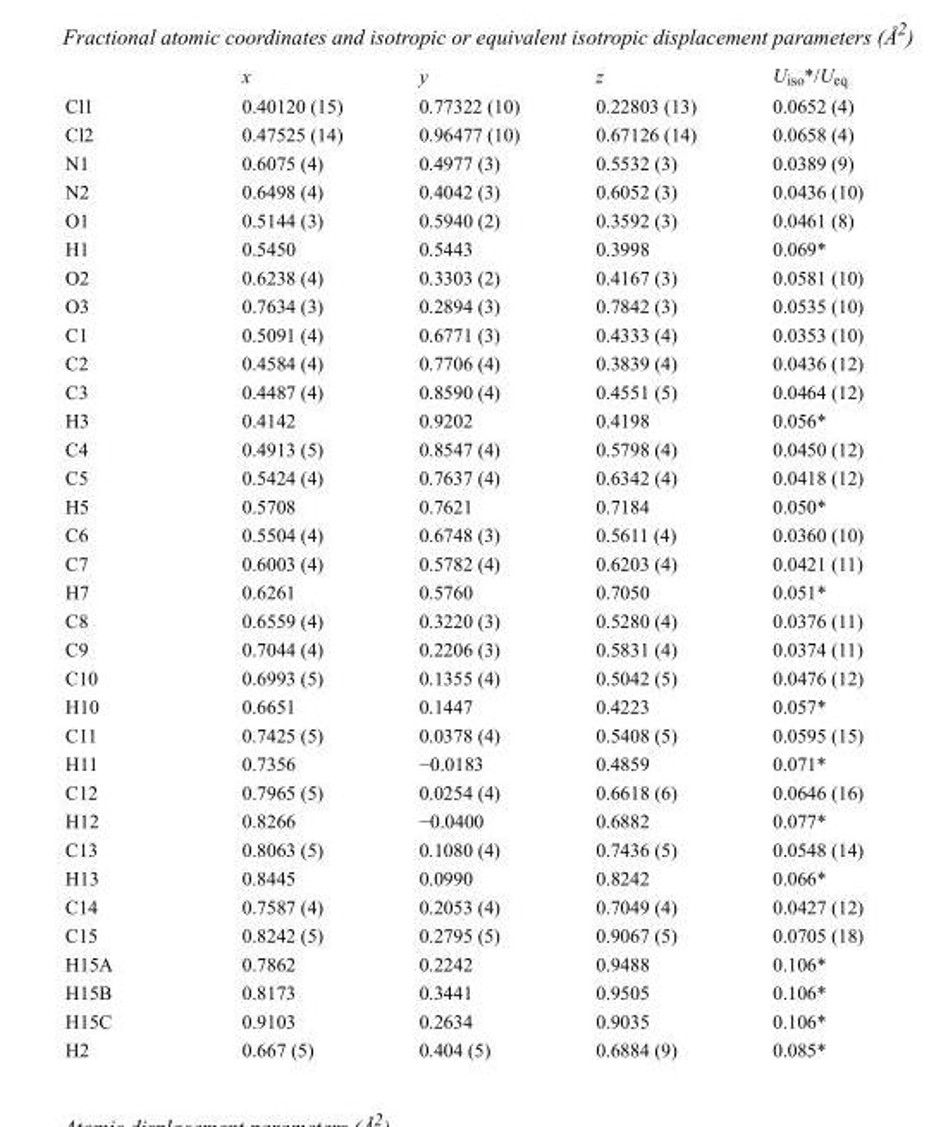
<table><thead><tr><td></td><td>x</td><td>y</td><td>z</td><td>U<sub>iso</sub>*/U<sub>eq</sub></td></tr></thead><tbody><tr><td>Cl1</td><td>0.40120 (15)</td><td>0.77322 (10)</td><td>0.22803 (13)</td><td>0.0652 (4)</td></tr><tr><td>Cl2</td><td>0.47525 (14)</td><td>0.96477 (10)</td><td>0.67126 (14)</td><td>0.0658 (4)</td></tr><tr><td>N1</td><td>0.6075 (4)</td><td>0.4977 (3)</td><td>0.5532 (3)</td><td>0.0389 (9)</td></tr><tr><td>N2</td><td>0.6498 (4)</td><td>0.4042 (3)</td><td>0.6052 (3)</td><td>0.0436 (10)</td></tr><tr><td>O1</td><td>0.5144 (3)</td><td>0.5940 (2)</td><td>0.3592 (3)</td><td>0.0461 (8)</td></tr><tr><td>H1</td><td>0.5450</td><td>0.5443</td><td>0.3998</td><td>0.069*</td></tr><tr><td>O2</td><td>0.6238 (4)</td><td>0.3303 (2)</td><td>0.4167 (3)</td><td>0.0581 (10)</td></tr><tr><td>O3</td><td>0.7634 (3)</td><td>0.2894 (3)</td><td>0.7842 (3)</td><td>0.0535 (10)</td></tr><tr><td>C1</td><td>0.5091 (4)</td><td>0.6771 (3)</td><td>0.4333 (4)</td><td>0.0353 (10)</td></tr><tr><td>C2</td><td>0.4584 (4)</td><td>0.7706 (4)</td><td>0.3839 (4)</td><td>0.0436 (12)</td></tr><tr><td>C3</td><td>0.4487 (4)</td><td>0.8590 (4)</td><td>0.4551 (5)</td><td>0.0464 (12)</td></tr><tr><td>H3</td><td>0.4142</td><td>0.9202</td><td>0.4198</td><td>0.056*</td></tr><tr><td>C4</td><td>0.4913 (5)</td><td>0.8547 (4)</td><td>0.5798 (4)</td><td>0.0450 (12)</td></tr><tr><td>C5</td><td>0.5424 (4)</td><td>0.7637 (4)</td><td>0.6342 (4)</td><td>0.0418 (12)</td></tr><tr><td>H5</td><td>0.5708</td><td>0.7621</td><td>0.7184</td><td>0.050*</td></tr><tr><td>C6</td><td>0.5504 (4)</td><td>0.6748 (3)</td><td>0.5611 (4)</td><td>0.0360 (10)</td></tr><tr><td>C7</td><td>0.6003 (4)</td><td>0.5782 (4)</td><td>0.6203 (4)</td><td>0.0421 (11)</td></tr><tr><td>H7</td><td>0.6261</td><td>0.5760</td><td>0.7050</td><td>0.051*</td></tr><tr><td>C8</td><td>0.6559 (4)</td><td>0.3220 (3)</td><td>0.5280 (4)</td><td>0.0376 (11)</td></tr><tr><td>C9</td><td>0.7044 (4)</td><td>0.2206 (3)</td><td>0.5831 (4)</td><td>0.0374 (11)</td></tr><tr><td>C10</td><td>0.6993 (5)</td><td>0.1355 (4)</td><td>0.5042 (5)</td><td>0.0476 (12)</td></tr><tr><td>H10</td><td>0.6651</td><td>0.1447</td><td>0.4223</td><td>0.057*</td></tr><tr><td>C11</td><td>0.7425 (5)</td><td>0.0378 (4)</td><td>0.5408 (5)</td><td>0.0595 (15)</td></tr><tr><td>H11</td><td>0.7356</td><td>−0.0183</td><td>0.4859</td><td>0.071*</td></tr><tr><td>C12</td><td>0.7965 (5)</td><td>0.0254 (4)</td><td>0.6618 (6)</td><td>0.0646 (16)</td></tr><tr><td>H12</td><td>0.8266</td><td>−0.0400</td><td>0.6882</td><td>0.077*</td></tr><tr><td>C13</td><td>0.8063 (5)</td><td>0.1080 (4)</td><td>0.7436 (5)</td><td>0.0548 (14)</td></tr><tr><td>H13</td><td>0.8445</td><td>0.0990</td><td>0.8242</td><td>0.066*</td></tr><tr><td>C14</td><td>0.7587 (4)</td><td>0.2053 (4)</td><td>0.7049 (4)</td><td>0.0427 (12)</td></tr><tr><td>C15</td><td>0.8242 (5)</td><td>0.2795 (5)</td><td>0.9067 (5)</td><td>0.0705 (18)</td></tr><tr><td>H15A</td><td>0.7862</td><td>0.2242</td><td>0.9488</td><td>0.106*</td></tr><tr><td>H15B</td><td>0.8173</td><td>0.3441</td><td>0.9505</td><td>0.106*</td></tr><tr><td>H15C</td><td>0.9103</td><td>0.2634</td><td>0.9035</td><td>0.106*</td></tr><tr><td>H2</td><td>0.667 (5)</td><td>0.404 (5)</td><td>0.6884 (9)</td><td>0.085*</td></tr></tbody></table>